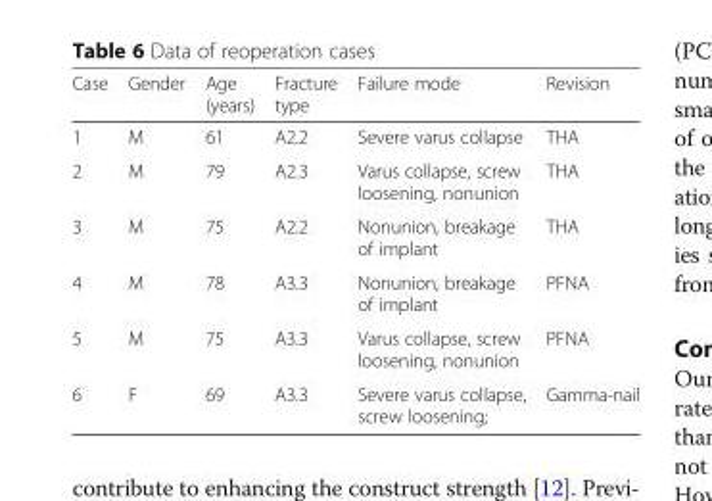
<table><thead><tr><td>Case</td><td>Gender</td><td>Age (years)</td><td>Fracture type</td><td>Failure mode</td><td>Revision</td></tr></thead><tbody><tr><td>1</td><td>M</td><td>61</td><td>A2.2</td><td>Severe varus collapse</td><td>THA</td></tr><tr><td>2</td><td>M</td><td>79</td><td>A2.3</td><td>Varus collapse, screw loosening, nonunion</td><td>THA</td></tr><tr><td>3</td><td>M</td><td>75</td><td>A2.2</td><td>Nonunion, breakage of implant</td><td>THA</td></tr><tr><td>4</td><td>M</td><td>78</td><td>A3.3</td><td>Nonunion, breakage of implant</td><td>PFNA</td></tr><tr><td>5</td><td>M</td><td>75</td><td>A3.3</td><td>Varus collapse, screw loosening, nonunion</td><td>PFNA</td></tr><tr><td>6</td><td>F</td><td>69</td><td>A3.3</td><td>Severe varus collapse, screw loosening;</td><td>Gamma-nail</td></tr></tbody></table>